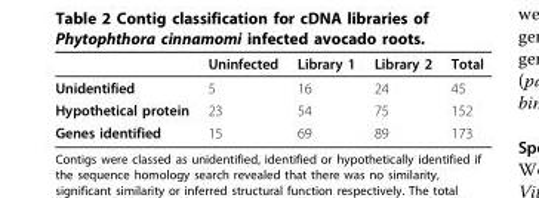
<table><thead><tr><td></td><td>Uninfected</td><td>Library 1</td><td>Library 2</td><td>Total</td></tr></thead><tbody><tr><td>Unidentified</td><td>5</td><td>16</td><td>24</td><td>45</td></tr><tr><td>Hypothetical protein</td><td>23</td><td>54</td><td>75</td><td>152</td></tr><tr><td>Genes identified</td><td>15</td><td>69</td><td>89</td><td>173</td></tr></tbody></table>